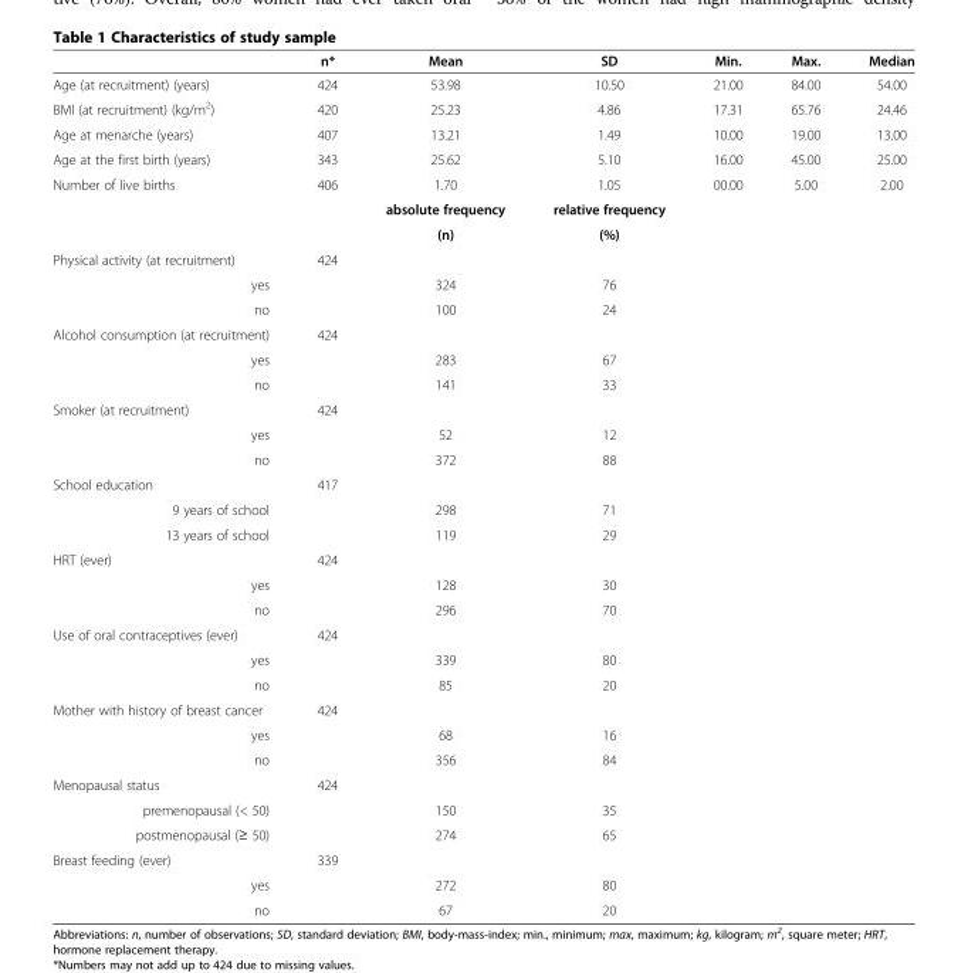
<table><thead><tr><td></td><td>n*</td><td>Mean</td><td>SD</td><td>Min.</td><td>Max.</td><td>Median</td></tr></thead><tbody><tr><td>Age (at recruitment) (years)</td><td>424</td><td>53.98</td><td>10.50</td><td>21.00</td><td>84.00</td><td>54.00</td></tr><tr><td>BMI (at recruitment) (kg/m<sup>2</sup>)</td><td>420</td><td>25.23</td><td>4.86</td><td>17.31</td><td>65.76</td><td>24.46</td></tr><tr><td>Age at menarche (years)</td><td>407</td><td>13.21</td><td>1.49</td><td>10.00</td><td>19.00</td><td>13.00</td></tr><tr><td>Age at the first birth (years)</td><td>343</td><td>25.62</td><td>5.10</td><td>16.00</td><td>45.00</td><td>25.00</td></tr><tr><td rowspan="3">Number of live births</td><td>406</td><td>1.70</td><td>1.05</td><td>00.00</td><td>5.00</td><td>2.00</td></tr><tr><td rowspan="2"></td><td>absolute frequency</td><td>relative frequency</td><td rowspan="2"></td><td rowspan="2"></td><td rowspan="2"></td></tr><tr><td>(n)</td><td>(%)</td></tr><tr><td>Physical activity (at recruitment)</td><td>424</td><td></td><td></td><td></td><td></td><td></td></tr><tr><td>yes</td><td></td><td>324</td><td>76</td><td></td><td></td><td></td></tr><tr><td>no</td><td></td><td>100</td><td>24</td><td></td><td></td><td></td></tr><tr><td>Alcohol consumption (at recruitment)</td><td>424</td><td></td><td></td><td></td><td></td><td></td></tr><tr><td>yes</td><td></td><td>283</td><td>67</td><td></td><td></td><td></td></tr><tr><td>no</td><td></td><td>141</td><td>33</td><td></td><td></td><td></td></tr><tr><td>Smoker (at recruitment)</td><td>424</td><td></td><td></td><td></td><td></td><td></td></tr><tr><td>yes</td><td></td><td>52</td><td>12</td><td></td><td></td><td></td></tr><tr><td>no</td><td></td><td>372</td><td>88</td><td></td><td></td><td></td></tr><tr><td>School education</td><td>417</td><td></td><td></td><td></td><td></td><td></td></tr><tr><td>9 years of school</td><td></td><td>298</td><td>71</td><td></td><td></td><td></td></tr><tr><td>13 years of school</td><td></td><td>119</td><td>29</td><td></td><td></td><td></td></tr><tr><td>HRT (ever)</td><td>424</td><td></td><td></td><td></td><td></td><td></td></tr><tr><td>yes</td><td></td><td>128</td><td>30</td><td></td><td></td><td></td></tr><tr><td>no</td><td></td><td>296</td><td>70</td><td></td><td></td><td></td></tr><tr><td>Use of oral contraceptives (ever)</td><td>424</td><td></td><td></td><td></td><td></td><td></td></tr><tr><td>yes</td><td></td><td>339</td><td>80</td><td></td><td></td><td></td></tr><tr><td>no</td><td></td><td>85</td><td>20</td><td></td><td></td><td></td></tr><tr><td>Mother with history of breast cancer</td><td>424</td><td></td><td></td><td></td><td></td><td></td></tr><tr><td>yes</td><td></td><td>68</td><td>16</td><td></td><td></td><td></td></tr><tr><td>no</td><td></td><td>356</td><td>84</td><td></td><td></td><td></td></tr><tr><td>Menopausal status</td><td>424</td><td></td><td></td><td></td><td></td><td></td></tr><tr><td>premenopausal (&lt; 50)</td><td></td><td>150</td><td>35</td><td></td><td></td><td></td></tr><tr><td>postmenopausal (≥ 50)</td><td></td><td>274</td><td>65</td><td></td><td></td><td></td></tr><tr><td>Breast feeding (ever)</td><td>339</td><td></td><td></td><td></td><td></td><td></td></tr><tr><td>yes</td><td></td><td>272</td><td>80</td><td></td><td></td><td></td></tr><tr><td>no</td><td></td><td>67</td><td>20</td><td></td><td></td><td></td></tr></tbody></table>